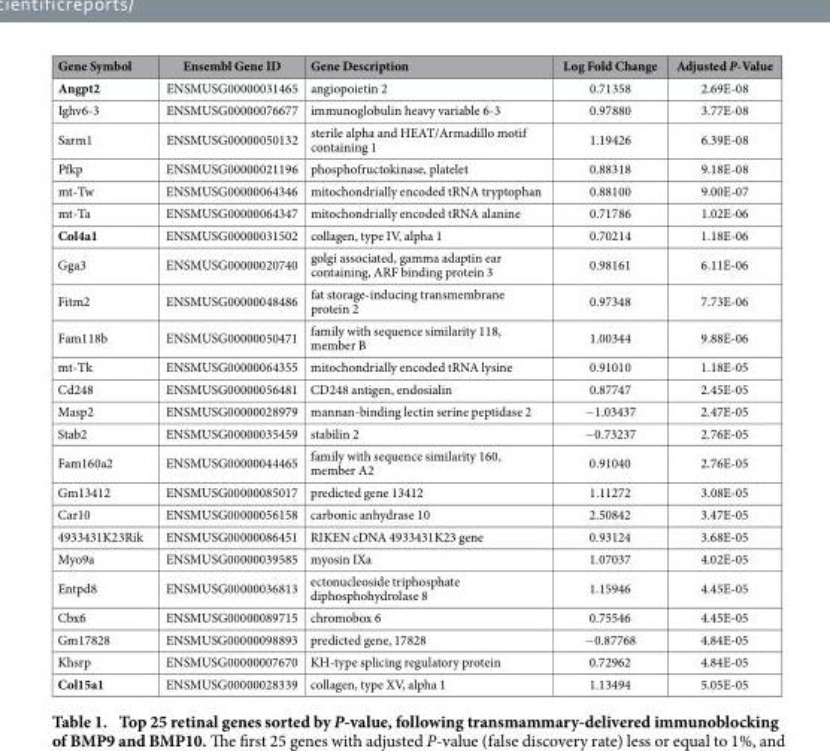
<table><thead><tr><td>Gene Symbol</td><td>Ensembl Gene ID</td><td>Gene Description</td><td>Log Fold Change</td><td>Adjusted P-Value</td></tr></thead><tbody><tr><td>Angpt2</td><td>ENSMUSG00000031465</td><td>angiopoietin 2</td><td>0.71358</td><td>2.69E-08</td></tr><tr><td>Ighv6-3</td><td>ENSMUSG00000076677</td><td>immunoglobulin heavy variable 6-3</td><td>0.97880</td><td>3.77E-08</td></tr><tr><td>Sarm1</td><td>ENSMUSG00000050132</td><td>sterile alpha and HEAT/Armadillo motif containing 1</td><td>1.19426</td><td>6.39E-08</td></tr><tr><td>Pfkp</td><td>ENSMUSG00000021196</td><td>phosphofructokinase, platelet</td><td>0.88318</td><td>9.18E-08</td></tr><tr><td>mt-Tw</td><td>ENSMUSG00000064346</td><td>mitochondrially encoded tRNA tryptophan</td><td>0.88100</td><td>9.00E-07</td></tr><tr><td>mt-Ta</td><td>ENSMUSG00000064347</td><td>mitochondrially encoded tRNA alanine</td><td>0.71786</td><td>1.02E-06</td></tr><tr><td>Col4a1</td><td>ENSMUSG00000031502</td><td>collagen, type IV, alpha 1</td><td>0.70214</td><td>1.18E-06</td></tr><tr><td>Gga3</td><td>ENSMUSG00000020740</td><td>golgi associated, gamma adaptin ear containing, ARF binding protein 3</td><td>0.98161</td><td>6.11E-06</td></tr><tr><td>Fitm2</td><td>ENSMUSG00000048486</td><td>fat storage-inducing transmembrane protein 2</td><td>0.97348</td><td>7.73E-06</td></tr><tr><td>Fam118b</td><td>ENSMUSG00000050471</td><td>family with sequence similarity 118, member B</td><td>1.00344</td><td>9.88E-06</td></tr><tr><td>mt-Tk</td><td>ENSMUSG00000064355</td><td>mitochondrially encoded tRNA lysine</td><td>0.91010</td><td>1.18E-05</td></tr><tr><td>Cd248</td><td>ENSMUSG00000056481</td><td>CD248 antigen, endosialin</td><td>0.87747</td><td>2.45E-05</td></tr><tr><td>Masp2</td><td>ENSMUSG00000028979</td><td>mannan-binding lectin serine peptidase 2</td><td>− 1.03437</td><td>2.47E-05</td></tr><tr><td>Stab2</td><td>ENSMUSG00000035459</td><td>stabilin 2</td><td>− 0.73237</td><td>2.76E-05</td></tr><tr><td>Fam160a2</td><td>ENSMUSG00000044465</td><td>family with sequence similarity 160, member A2</td><td>0.91040</td><td>2.76E-05</td></tr><tr><td>Gm13412</td><td>ENSMUSG00000085017</td><td>predicted gene 13412</td><td>1.11272</td><td>3.08E-05</td></tr><tr><td>Car10</td><td>ENSMUSG00000056158</td><td>carbonic anhydrase 10</td><td>2.50842</td><td>3.47E-05</td></tr><tr><td>4933431K23Rik</td><td>ENSMUSG00000086451</td><td>RIKEN cDNA 4933431K23 gene</td><td>0.93124</td><td>3.68E-05</td></tr><tr><td>Myo9a</td><td>ENSMUSG00000039585</td><td>myosin IXa</td><td>1.07037</td><td>4.02E-05</td></tr><tr><td>Entpd8</td><td>ENSMUSG00000036813</td><td>ectonucleoside triphosphate diphosphohydrolase 8</td><td>1.15946</td><td>4.45E-05</td></tr><tr><td>Cbx6</td><td>ENSMUSG00000089715</td><td>chromobox 6</td><td>0.75546</td><td>4.45E-05</td></tr><tr><td>Gm17828</td><td>ENSMUSG00000098893</td><td>predicted gene, 17828</td><td>− 0.87768</td><td>4.84E-05</td></tr><tr><td>Khsrp</td><td>ENSMUSG00000007670</td><td>KH-type splicing regulatory protein</td><td>0.72962</td><td>4.84E-05</td></tr><tr><td>Col15a1</td><td>ENSMUSG00000028339</td><td>collagen, type XV, alpha 1</td><td>1.13494</td><td>5.05E-05</td></tr></tbody></table>